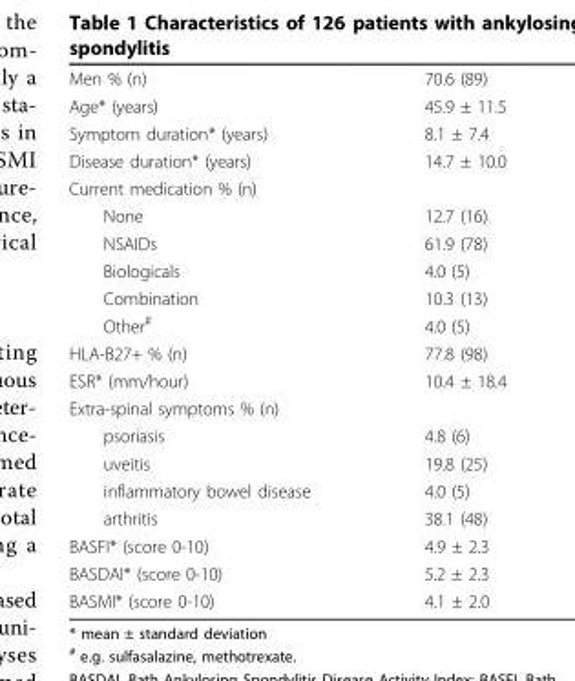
<table><tbody><tr><td>Men % (n)</td><td>70.6 (89)</td></tr><tr><td>Age* (years)</td><td>45.9 ± 11.5</td></tr><tr><td>Symptom duration* (years)</td><td>8.1 ± 7.4</td></tr><tr><td>Disease duration* (years)</td><td>14.7 ± 10.0</td></tr><tr><td colspan="2">Current medication % (n)</td></tr><tr><td>None</td><td>12.7 (16)</td></tr><tr><td>NSAIDs</td><td>61.9 (78)</td></tr><tr><td>Biologicals</td><td>4.0 (5)</td></tr><tr><td>Combination</td><td>10.3 (13)</td></tr><tr><td>Other<sup>#</sup></td><td>4.0 (5)</td></tr><tr><td>HLA-B27+ % (n)</td><td>77.8 (98)</td></tr><tr><td>ESR* (mm/hour)</td><td>10.4 ± 18.4</td></tr><tr><td colspan="2">Extra-spinal symptoms % (n)</td></tr><tr><td>psoriasis</td><td>4.8 (6)</td></tr><tr><td>uveitis</td><td>19.8 (25)</td></tr><tr><td>inflammatory bowel disease</td><td>4.0 (5)</td></tr><tr><td>arthritis</td><td>38.1 (48)</td></tr><tr><td>BASFI* (score 0-10)</td><td>4.9 ± 2.3</td></tr><tr><td>BASDAI* (score 0-10)</td><td>5.2 ± 2.3</td></tr><tr><td>BASMI* (score 0-10)</td><td>4.1 ± 2.0</td></tr></tbody></table>